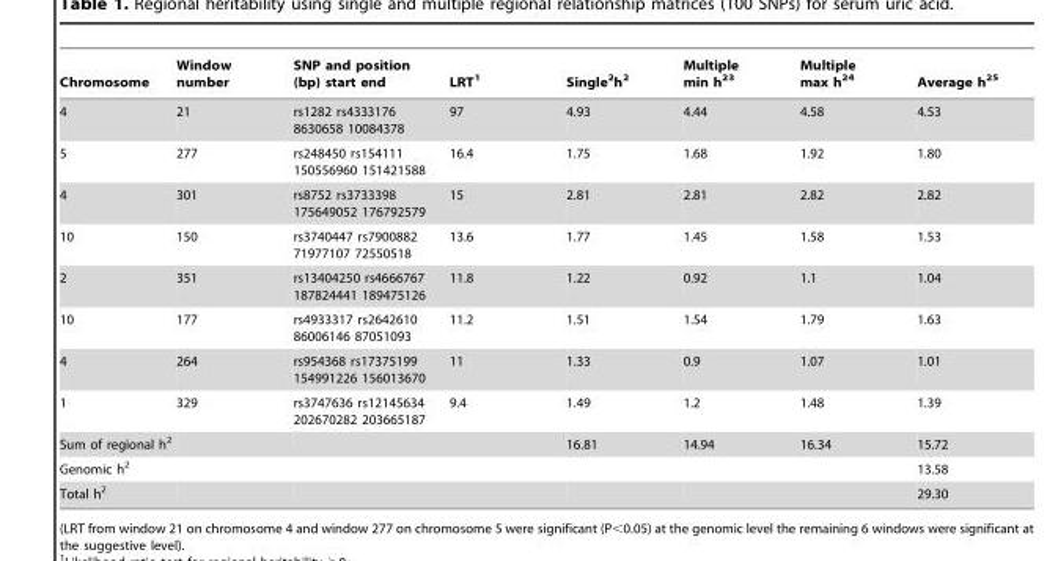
<table><thead><tr><td>Chromosome</td><td>Window number</td><td>SNP and position (bp) start end</td><td>LRT<sup>1</sup></td><td>Single<sup>2</sup>h<sup>2</sup></td><td>Multiple min h<sup>23</sup></td><td>Multiple max h<sup>24</sup></td><td>Average h<sup>25</sup></td></tr></thead><tbody><tr><td>4</td><td>21</td><td>rs1282 rs4333176 8630658 10084378</td><td>97</td><td>4.93</td><td>4.44</td><td>4.58</td><td>4.53</td></tr><tr><td>5</td><td>277</td><td>rs248450 rs154111 150556960 151421588</td><td>16.4</td><td>1.75</td><td>1.68</td><td>1.92</td><td>1.80</td></tr><tr><td>4</td><td>301</td><td>rs8752 rs3733398 175649052 176792579</td><td>15</td><td>2.81</td><td>2.81</td><td>2.82</td><td>2.82</td></tr><tr><td>10</td><td>150</td><td>rs3740447 rs7900882 71977107 72550518</td><td>13.6</td><td>1.77</td><td>1.45</td><td>1.58</td><td>1.53</td></tr><tr><td>2</td><td>351</td><td>rs13404250 rs4666767 187824441 189475126</td><td>11.8</td><td>1.22</td><td>0.92</td><td>1.1</td><td>1.04</td></tr><tr><td>10</td><td>177</td><td>rs4933317 rs2642610 86006146 87051093</td><td>11.2</td><td>1.51</td><td>1.54</td><td>1.79</td><td>1.63</td></tr><tr><td>4</td><td>264</td><td>rs954368 rs17375199 154991226 156013670</td><td>11</td><td>1.33</td><td>0.9</td><td>1.07</td><td>1.01</td></tr><tr><td>1</td><td>329</td><td>rs3747636 rs12145634 202670282 203665187</td><td>9.4</td><td>1.49</td><td>1.2</td><td>1.48</td><td>1.39</td></tr><tr><td>Sum of regional h<sup>2</sup></td><td></td><td></td><td></td><td>16.81</td><td>14.94</td><td>16.34</td><td>15.72</td></tr><tr><td>Genomic h<sup>2</sup></td><td></td><td></td><td></td><td></td><td></td><td></td><td>13.58</td></tr><tr><td>Total h<sup>2</sup></td><td></td><td></td><td></td><td></td><td></td><td></td><td>29.30</td></tr></tbody></table>